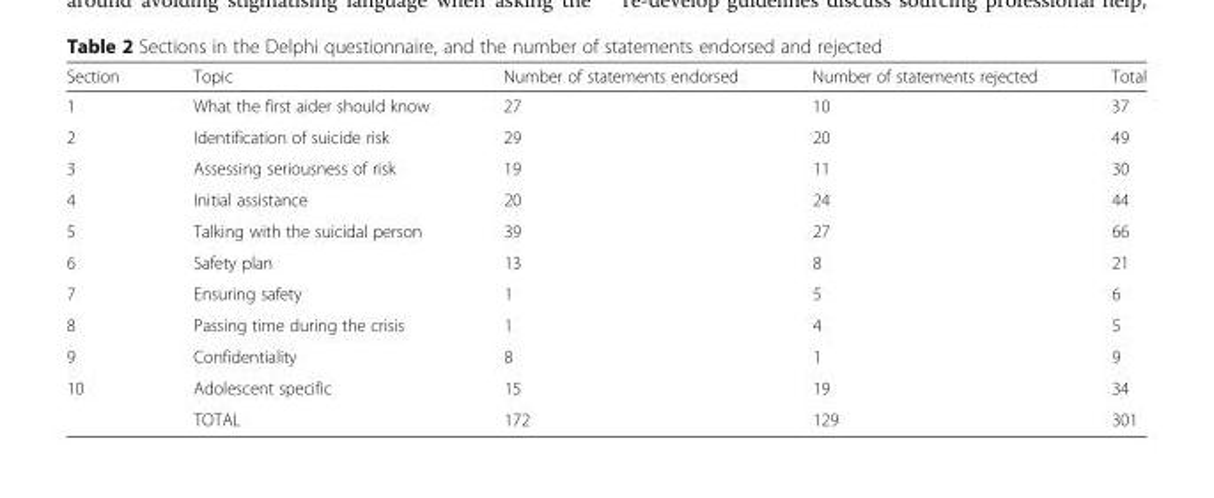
<table><thead><tr><td>Section</td><td>Topic</td><td>Number of statements endorsed</td><td>Number of statements rejected</td><td>Total</td></tr></thead><tbody><tr><td>1</td><td>What the first aider should know</td><td>27</td><td>10</td><td>37</td></tr><tr><td>2</td><td>Identification of suicide risk</td><td>29</td><td>20</td><td>49</td></tr><tr><td>3</td><td>Assessing seriousness of risk</td><td>19</td><td>11</td><td>30</td></tr><tr><td>4</td><td>Initial assistance</td><td>20</td><td>24</td><td>44</td></tr><tr><td>5</td><td>Talking with the suicidal person</td><td>39</td><td>27</td><td>66</td></tr><tr><td>6</td><td>Safety plan</td><td>13</td><td>8</td><td>21</td></tr><tr><td>7</td><td>Ensuring safety</td><td>1</td><td>5</td><td>6</td></tr><tr><td>8</td><td>Passing time during the crisis</td><td>1</td><td>4</td><td>5</td></tr><tr><td>9</td><td>Confidentiality</td><td>8</td><td>1</td><td>9</td></tr><tr><td rowspan="2">10</td><td>Adolescent specific</td><td>15</td><td>19</td><td>34</td></tr><tr><td>TOTAL</td><td>172</td><td>129</td><td>301</td></tr></tbody></table>